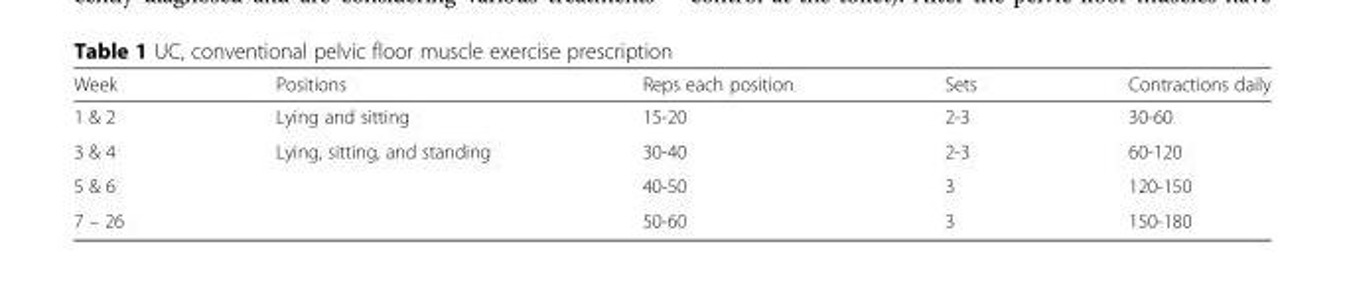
<table><thead><tr><td>Week</td><td>Positions</td><td>Reps each position</td><td>Sets</td><td>Contractions daily</td></tr></thead><tbody><tr><td>1 &amp; 2</td><td>Lying and sitting</td><td>15-20</td><td>2-3</td><td>30-60</td></tr><tr><td>3 &amp; 4</td><td rowspan="3">Lying, sitting, and standing</td><td>30-40</td><td>2-3</td><td>60-120</td></tr><tr><td>5 &amp; 6</td><td>40-50</td><td>3</td><td>120-150</td></tr><tr><td>7 – 26</td><td>50-60</td><td>3</td><td>150-180</td></tr></tbody></table>